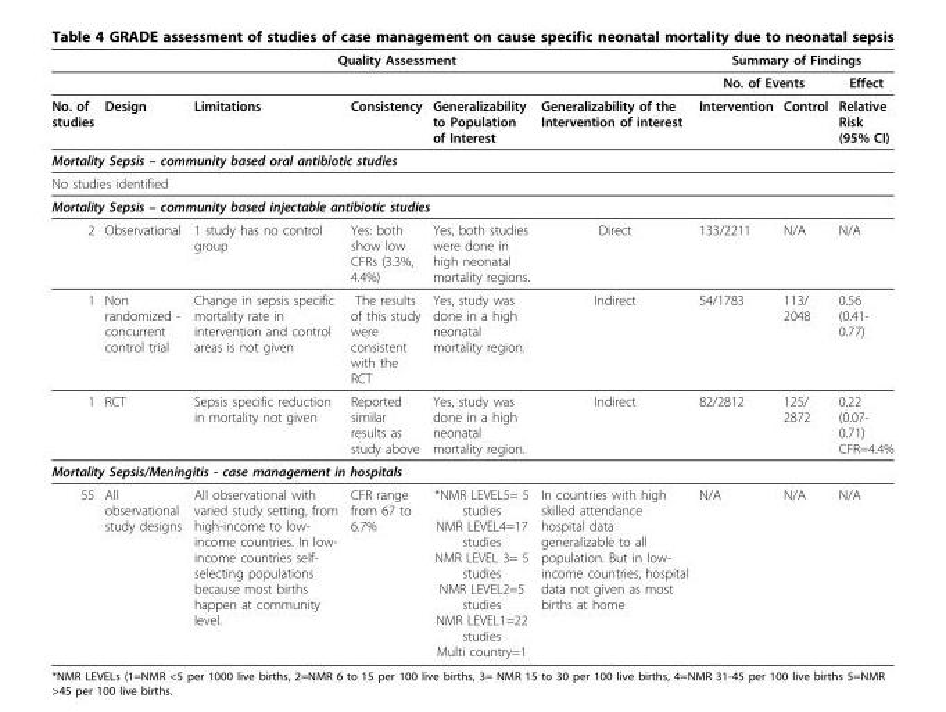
<table><thead><tr><td rowspan="3">No. of studies</td><td colspan="5">Quality Assessment</td><td colspan="3">Summary of Findings</td></tr><tr><td rowspan="2">Design</td><td rowspan="2">Limitations</td><td rowspan="2">Consistency</td><td colspan="2"></td><td colspan="2">No. of Events</td><td rowspan="2">Effect Relative Risk (95% CI)</td></tr><tr><td>Generalizability to Population of Interest</td><td>Generalizability of the Intervention of interest</td><td>Intervention</td><td>Control</td></tr></thead><tbody><tr><td colspan="9">Mortality Sepsis – community based oral antibiotic studies</td></tr><tr><td colspan="9">No studies identified</td></tr><tr><td colspan="9">Mortality Sepsis – community based injectable antibiotic studies</td></tr><tr><td>2</td><td>Observational</td><td>1 study has no control group</td><td>Yes: both show low CFRs (3.3%, 4.4%)</td><td>Yes, both studies were done in high neonatal mortality regions.</td><td>Direct</td><td>133/2211</td><td>N/A</td><td>N/A</td></tr><tr><td>1</td><td>Non randomized - concurrent control trial</td><td>Change in sepsis specific mortality rate in intervention and control areas is not given</td><td>The results of this study were consistent with the RCT</td><td>Yes, study was done in a high neonatal mortality region.</td><td>Indirect</td><td>54/1783</td><td>113/ 2048</td><td>0.56 (0.41- 0.77)</td></tr><tr><td>1</td><td>RCT</td><td>Sepsis specific reduction in mortality not given</td><td>Reported similar results as study above</td><td>Yes, study was done in a high neonatal mortality region.</td><td>Indirect</td><td>82/2812</td><td>125/ 2872</td><td>0.22 (0.07- 0.71) CFR=4.4%</td></tr><tr><td colspan="9">Mortality Sepsis/Meningitis - case management in hospitals</td></tr><tr><td>55</td><td>All observational study designs</td><td>All observational with varied study setting, from high-income to low- income countries. In low- income countries self- selecting populations because most births happen at community level.</td><td>CFR range from 67 to 6.7%</td><td>*NMR LEVEL5= 5 studies NMR LEVEL4=17 studies NMR LEVEL 3= 5 studies NMR LEVEL2=5 studies NMR LEVEL1=22 studies Multi country=1</td><td>In countries with high skilled attendance hospital data generalizable to all population. But in low- income countries, hospital data not given as most births at home</td><td>N/A</td><td>N/A</td><td>N/A</td></tr></tbody></table>